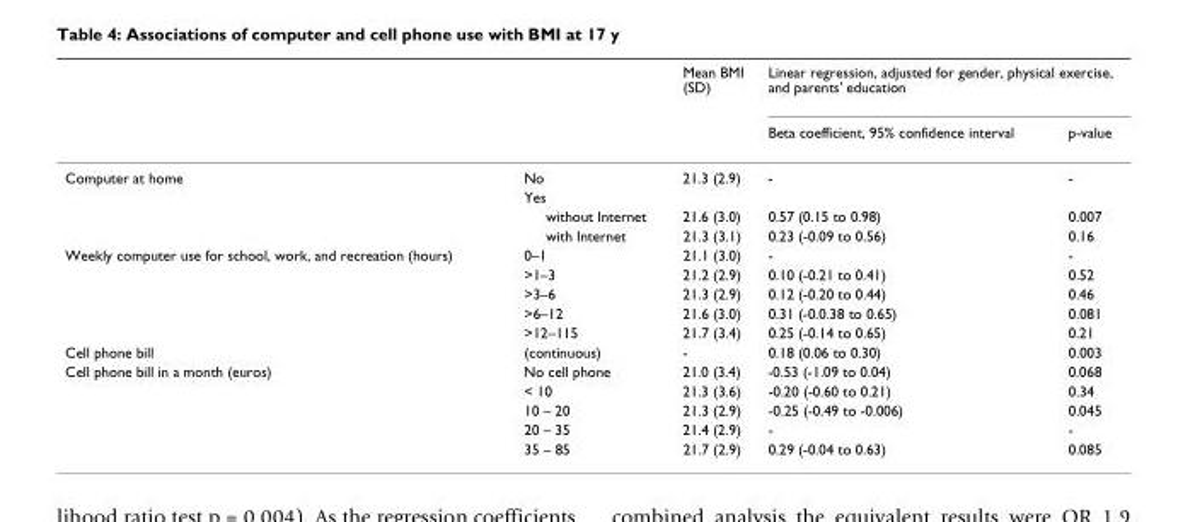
<table><thead><tr><td rowspan="2"></td><td rowspan="2"></td><td rowspan="2">Mean BMI (SD)</td><td colspan="2">Linear regression, adjusted for gender, physical exercise, and parents&#x27; education</td></tr><tr><td>Beta coefficient, 95% confidence interval</td><td>p-value</td></tr></thead><tbody><tr><td rowspan="4">Computer at home</td><td>No</td><td>21.3 (2.9)</td><td>-</td><td>-</td></tr><tr><td>Yes</td><td></td><td></td><td></td></tr><tr><td>without Internet</td><td>21.6 (3.0)</td><td>0.57 (0.15 to 0.98)</td><td>0.007</td></tr><tr><td>with Internet</td><td>21.3 (3.1)</td><td>0.23 (-0.09 to 0.56)</td><td>0.16</td></tr><tr><td rowspan="5">Weekly computer use for school, work, and recreation (hours)</td><td>0–1</td><td>21.1 (3.0)</td><td>-</td><td>-</td></tr><tr><td>&gt;1–3</td><td>21.2 (2.9)</td><td>0.10 (-0.21 to 0.41)</td><td>0.52</td></tr><tr><td>&gt;3–6</td><td>21.3 (2.9)</td><td>0.12 (-0.20 to 0.44)</td><td>0.46</td></tr><tr><td>&gt;6–12</td><td>21.6 (3.0)</td><td>0.31 (-0.0.38 to 0.65)</td><td>0.081</td></tr><tr><td>&gt;12–115</td><td>21.7 (3.4)</td><td>0.25 (-0.14 to 0.65)</td><td>0.21</td></tr><tr><td>Cell phone bill</td><td>(continuous)</td><td>-</td><td>0.18 (0.06 to 0.30)</td><td>0.003</td></tr><tr><td rowspan="5">Cell phone bill in a month (euros)</td><td>No cell phone</td><td>21.0 (3.4)</td><td>-0.53 (-1.09 to 0.04)</td><td>0.068</td></tr><tr><td>&lt; 10</td><td>21.3 (3.6)</td><td>-0.20 (-0.60 to 0.21)</td><td>0.34</td></tr><tr><td>10 – 20</td><td>21.3 (2.9)</td><td>-0.25 (-0.49 to -0.006)</td><td>0.045</td></tr><tr><td>20 – 35</td><td>21.4 (2.9)</td><td>-</td><td>-</td></tr><tr><td>35 – 85</td><td>21.7 (2.9)</td><td>0.29 (-0.04 to 0.63)</td><td>0.085</td></tr></tbody></table>